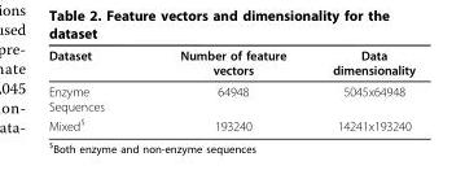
<table><thead><tr><td>Dataset</td><td>Number of feature vectors</td><td>Data dimensionality</td></tr></thead><tbody><tr><td>Enzyme Sequences</td><td>64948</td><td>5045x64948</td></tr><tr><td>Mixed<sup>$</sup></td><td>193240</td><td>14241x193240</td></tr></tbody></table>